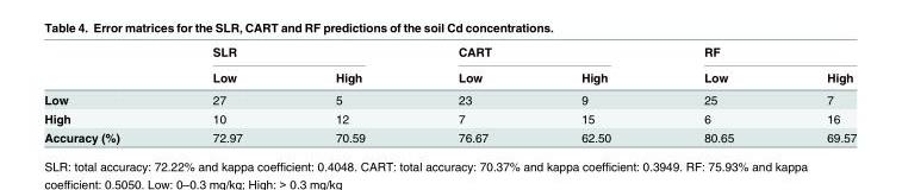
<table><thead><tr><td rowspan="2"></td><td colspan="2">SLR</td><td colspan="2">CART</td><td colspan="2">RF</td></tr><tr><td>Low</td><td>High</td><td>Low</td><td>High</td><td>Low</td><td>High</td></tr></thead><tbody><tr><td>Low</td><td>27</td><td>5</td><td>23</td><td>9</td><td>25</td><td>7</td></tr><tr><td>High</td><td>10</td><td>12</td><td>7</td><td>15</td><td>6</td><td>16</td></tr><tr><td>Accuracy (%)</td><td>72.97</td><td>70.59</td><td>76.67</td><td>62.50</td><td>80.65</td><td>69.57</td></tr></tbody></table>